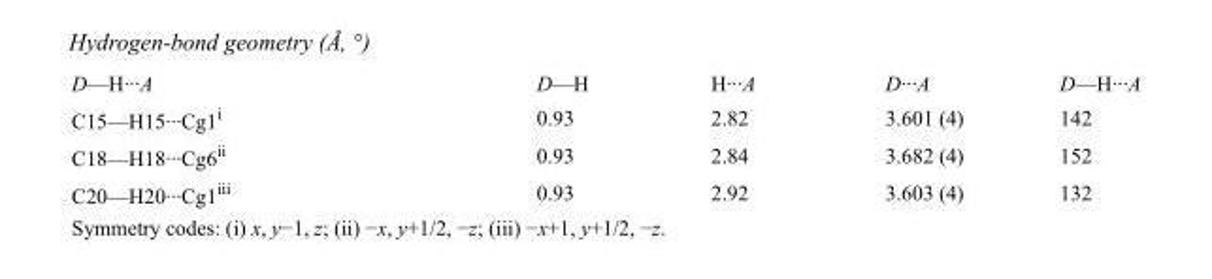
<table><tbody><tr><td>D—H···A</td><td>D—H</td><td>H···A</td><td>D···A</td><td>D—H···A</td></tr><tr><td>C15—H15···Cg1<sup>i</sup></td><td>0.93</td><td>2.82</td><td>3.601 (4)</td><td>142</td></tr><tr><td>C18—H18···Cg6<sup>ii</sup></td><td>0.93</td><td>2.84</td><td>3.682 (4)</td><td>152</td></tr><tr><td>C20—H20···Cg1<sup>iii</sup></td><td>0.93</td><td>2.92</td><td>3.603 (4)</td><td>132</td></tr></tbody></table>